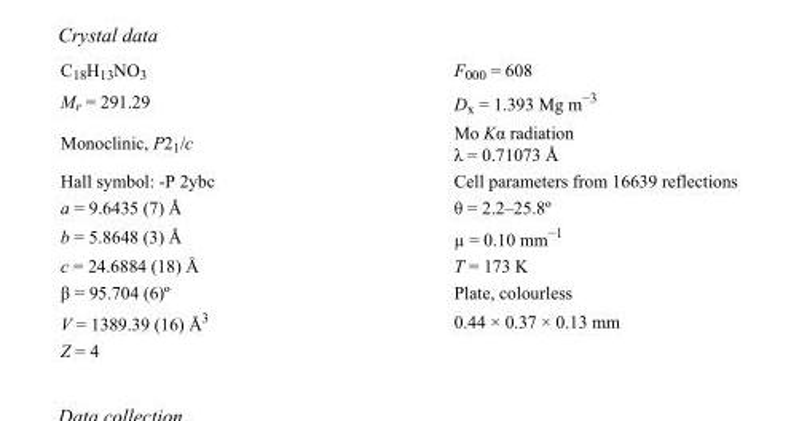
<table><tbody><tr><td>C<sub>18</sub>H<sub>13</sub>NO<sub>3</sub></td><td>F000 = 608</td></tr><tr><td>M<sub>r</sub> = 291.29</td><td>D<sub>x</sub> = 1.393 Mg m<sup>−3</sup></td></tr><tr><td>Monoclinic, P2<sub>1</sub>/c</td><td>Mo Kα radiation λ = 0.71073 Å</td></tr><tr><td>Hall symbol: -P 2ybc</td><td>Cell parameters from 16639 reflections</td></tr><tr><td>a = 9.6435 (7) Å</td><td>θ = 2.2–25.8º</td></tr><tr><td>b = 5.8648 (3) Å</td><td>µ = 0.10 mm<sup>−1</sup></td></tr><tr><td>c = 24.6884 (18) Å</td><td>T = 173 K</td></tr><tr><td>β = 95.704 (6)º</td><td>Plate, colourless</td></tr><tr><td>V = 1389.39 (16) Å<sup>3</sup></td><td>0.44 × 0.37 × 0.13 mm</td></tr><tr><td>Z = 4</td><td></td></tr></tbody></table>